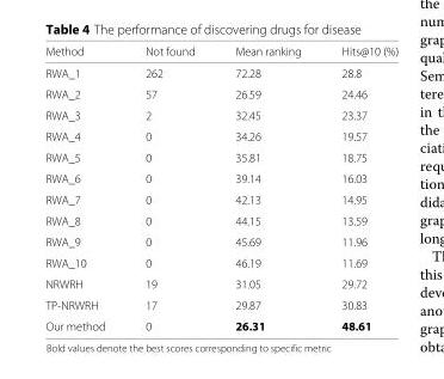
<table><thead><tr><td>Method</td><td>Not found</td><td>Mean ranking</td><td>Hits@10 (%)</td></tr></thead><tbody><tr><td>RWA_1</td><td>262</td><td>72.28</td><td>28.8</td></tr><tr><td>RWA_2</td><td>57</td><td>26.59</td><td>24.46</td></tr><tr><td>RWA_3</td><td>2</td><td>32.45</td><td>23.37</td></tr><tr><td>RWA_4</td><td>0</td><td>34.26</td><td>19.57</td></tr><tr><td>RWA_5</td><td>0</td><td>35.81</td><td>18.75</td></tr><tr><td>RWA_6</td><td>0</td><td>39.14</td><td>16.03</td></tr><tr><td>RWA_7</td><td>0</td><td>42.13</td><td>14.95</td></tr><tr><td>RWA_8</td><td>0</td><td>44.15</td><td>13.59</td></tr><tr><td>RWA_9</td><td>0</td><td>45.69</td><td>11.96</td></tr><tr><td>RWA_10</td><td>0</td><td>46.19</td><td>11.69</td></tr><tr><td>NRWRH</td><td>19</td><td>31.05</td><td>29.72</td></tr><tr><td>TP-NRWRH</td><td>17</td><td>29.87</td><td>30.83</td></tr><tr><td>Our method</td><td>0</td><td>26.31</td><td>48.61</td></tr></tbody></table>